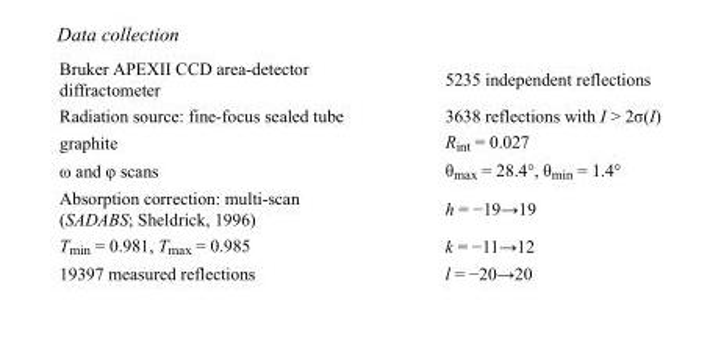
<table><tbody><tr><td>Bruker APEXII CCD area-detector diffractometer</td><td>5235 independent reflections</td></tr><tr><td>Radiation source: fine-focus sealed tube</td><td>3638 reflections with I &gt; 2σ(I)</td></tr><tr><td>graphite</td><td>R<sub>int</sub> = 0.027</td></tr><tr><td>ω and φ scans</td><td>θ<sub>max</sub> = 28.4°, θ<sub>min</sub> = 1.4°</td></tr><tr><td>Absorption correction: multi-scan (SADABS; Sheldrick, 1996)</td><td>h = −19→19</td></tr><tr><td>T<sub>min</sub> = 0.981, T<sub>max</sub> = 0.985</td><td>k = −11→12</td></tr><tr><td>19397 measured reflections</td><td>l = −20→20</td></tr></tbody></table>